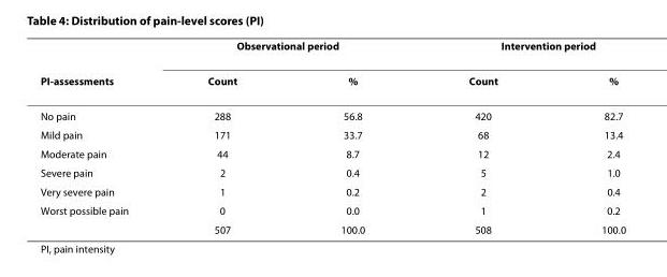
<table><thead><tr><td rowspan="2">PI-assessments</td><td colspan="2">Observational period</td><td colspan="2">Intervention period</td></tr><tr><td>Count</td><td>%</td><td>Count</td><td>%</td></tr></thead><tbody><tr><td>No pain</td><td>288</td><td>56.8</td><td>420</td><td>82.7</td></tr><tr><td>Mild pain</td><td>171</td><td>33.7</td><td>68</td><td>13.4</td></tr><tr><td>Moderate pain</td><td>44</td><td>8.7</td><td>12</td><td>2.4</td></tr><tr><td>Severe pain</td><td>2</td><td>0.4</td><td>5</td><td>1.0</td></tr><tr><td>Very severe pain</td><td>1</td><td>0.2</td><td>2</td><td>0.4</td></tr><tr><td rowspan="2">Worst possible pain</td><td>0</td><td>0.0</td><td>1</td><td>0.2</td></tr><tr><td>507</td><td>100.0</td><td>508</td><td>100.0</td></tr></tbody></table>